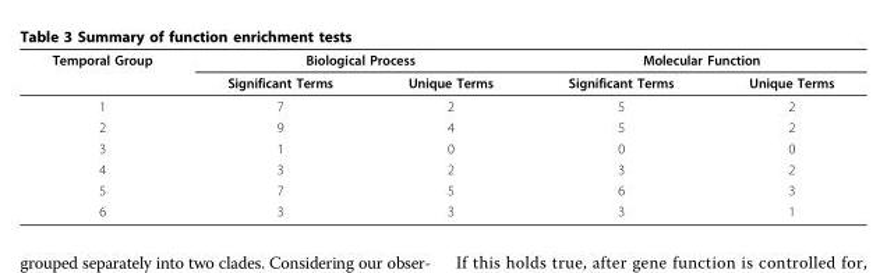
<table><thead><tr><td rowspan="2">Temporal Group</td><td colspan="2">Biological Process</td><td colspan="2">Molecular Function</td></tr><tr><td>Significant Terms</td><td>Unique Terms</td><td>Significant Terms</td><td>Unique Terms</td></tr></thead><tbody><tr><td>1</td><td>7</td><td>2</td><td>5</td><td>2</td></tr><tr><td>2</td><td>9</td><td>4</td><td>5</td><td>2</td></tr><tr><td>3</td><td>1</td><td>0</td><td>0</td><td>0</td></tr><tr><td>4</td><td>3</td><td>2</td><td>3</td><td>2</td></tr><tr><td>5</td><td>7</td><td>5</td><td>6</td><td>3</td></tr><tr><td>6</td><td>3</td><td>3</td><td>3</td><td>1</td></tr></tbody></table>